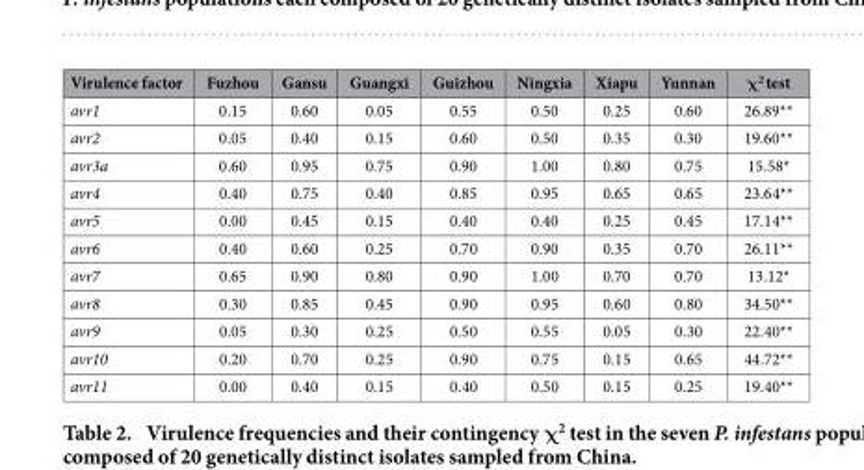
<table><thead><tr><td>Virulence factor</td><td>Fuzhou</td><td>Gansu</td><td>Guangxi</td><td>Guizhou</td><td>Ningxia</td><td>Xiapu</td><td>Yunnan</td><td>χ<sup>2</sup> test</td></tr></thead><tbody><tr><td>avr1</td><td>0.15</td><td>0.60</td><td>0.05</td><td>0.55</td><td>0.50</td><td>0.25</td><td>0.60</td><td>26.89**</td></tr><tr><td>avr2</td><td>0.05</td><td>0.40</td><td>0.15</td><td>0.60</td><td>0.50</td><td>0.35</td><td>0.30</td><td>19.60**</td></tr><tr><td>avr3a</td><td>0.60</td><td>0.95</td><td>0.75</td><td>0.90</td><td>1.00</td><td>0.80</td><td>0.75</td><td>15.58*</td></tr><tr><td>avr4</td><td>0.40</td><td>0.75</td><td>0.40</td><td>0.85</td><td>0.95</td><td>0.65</td><td>0.65</td><td>23.64**</td></tr><tr><td>avr5</td><td>0.00</td><td>0.45</td><td>0.15</td><td>0.40</td><td>0.40</td><td>0.25</td><td>0.45</td><td>17.14**</td></tr><tr><td>avr6</td><td>0.40</td><td>0.60</td><td>0.25</td><td>0.70</td><td>0.90</td><td>0.35</td><td>0.70</td><td>26.11**</td></tr><tr><td>avr7</td><td>0.65</td><td>0.90</td><td>0.80</td><td>0.90</td><td>1.00</td><td>0.70</td><td>0.70</td><td>13.12*</td></tr><tr><td>avr8</td><td>0.30</td><td>0.85</td><td>0.45</td><td>0.90</td><td>0.95</td><td>0.60</td><td>0.80</td><td>34.50**</td></tr><tr><td>avr9</td><td>0.05</td><td>0.30</td><td>0.25</td><td>0.50</td><td>0.55</td><td>0.05</td><td>0.30</td><td>22.40**</td></tr><tr><td>avr10</td><td>0.20</td><td>0.70</td><td>0.25</td><td>0.90</td><td>0.75</td><td>0.15</td><td>0.65</td><td>44.72**</td></tr><tr><td>avr11</td><td>0.00</td><td>0.40</td><td>0.15</td><td>0.40</td><td>0.50</td><td>0.15</td><td>0.25</td><td>19.40**</td></tr></tbody></table>